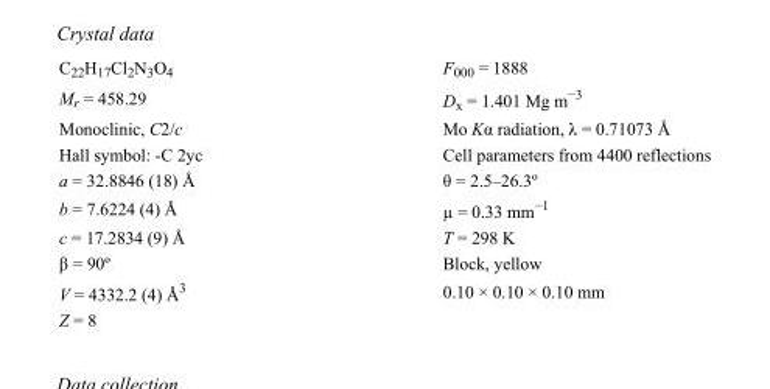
<table><tbody><tr><td>C<sub>22</sub>H<sub>17</sub>Cl<sub>2</sub>N<sub>3</sub>O<sub>4</sub></td><td>F000 = 1888</td></tr><tr><td>M<sub>r</sub> = 458.29</td><td>D<sub>x</sub> = 1.401 Mg m<sup>−3</sup></td></tr><tr><td>Monoclinic, C2/c</td><td>Mo Kα radiation, λ = 0.71073 Å</td></tr><tr><td>Hall symbol: -C 2yc</td><td>Cell parameters from 4400 reflections</td></tr><tr><td>a = 32.8846 (18) Å</td><td>θ = 2.5–26.3º</td></tr><tr><td>b = 7.6224 (4) Å</td><td>µ = 0.33 mm<sup>−1</sup></td></tr><tr><td>c = 17.2834 (9) Å</td><td>T = 298 K</td></tr><tr><td>β = 90º</td><td>Block, yellow</td></tr><tr><td>V = 4332.2 (4) Å<sup>3</sup></td><td>0.10 × 0.10 × 0.10 mm</td></tr><tr><td>Z = 8</td><td></td></tr></tbody></table>